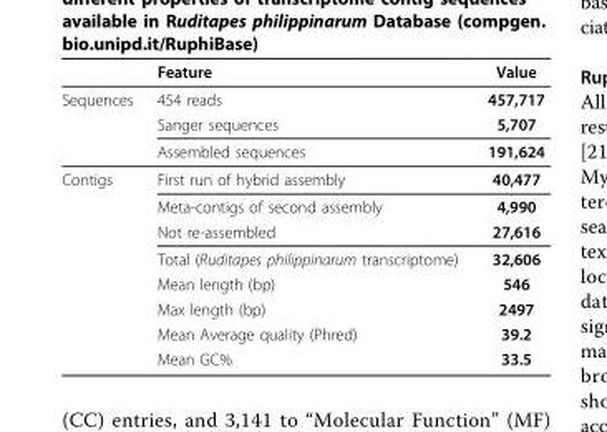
<table><thead><tr><td></td><td>Feature</td><td>Value</td></tr></thead><tbody><tr><td rowspan="3">Sequences</td><td>454 reads</td><td>457,717</td></tr><tr><td>Sanger sequences</td><td>5,707</td></tr><tr><td>Assembled sequences</td><td>191,624</td></tr><tr><td rowspan="8">Contigs</td><td>First run of hybrid assembly</td><td>40,477</td></tr><tr><td>Meta-contigs of second assembly</td><td>4,990</td></tr><tr><td>Not re-assembled</td><td>27,616</td></tr><tr><td>Total (Ruditapes philippinarum transcriptome)</td><td>32,606</td></tr><tr><td>Mean length (bp)</td><td>546</td></tr><tr><td>Max length (bp)</td><td>2497</td></tr><tr><td>Mean Average quality (Phred)</td><td>39.2</td></tr><tr><td>Mean GC%</td><td>33.5</td></tr></tbody></table>